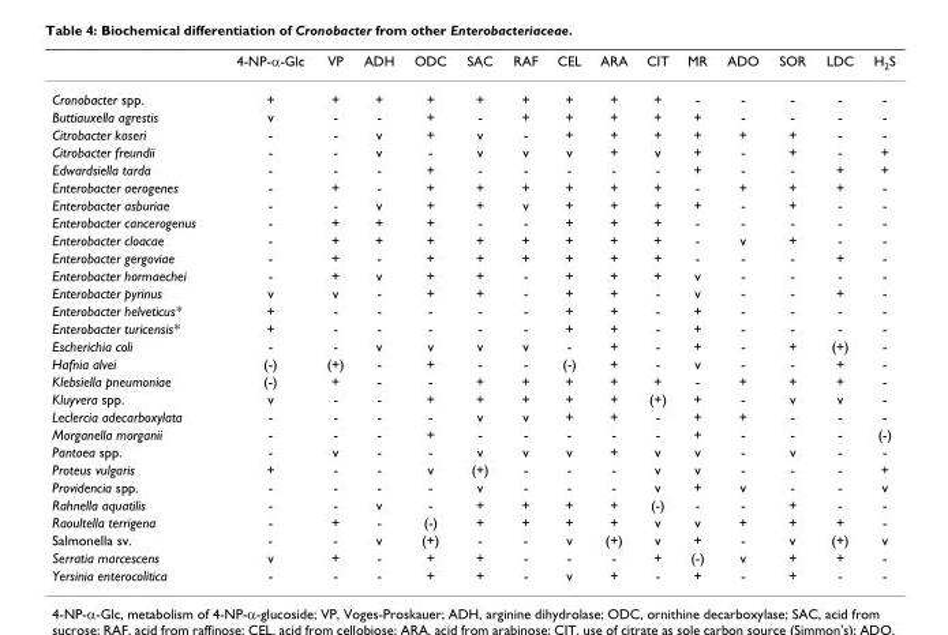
<table><thead><tr><td></td><td>4-NP-α-Glc</td><td>VP</td><td>ADH</td><td>ODC</td><td>SAC</td><td>RAF</td><td>CEL</td><td>ARA</td><td>CIT</td><td>MR</td><td>ADO</td><td>SOR</td><td>LDC</td><td>H<sub>2</sub>S</td></tr></thead><tbody><tr><td>Cronobacter spp.</td><td>+</td><td>+</td><td>+</td><td>+</td><td>+</td><td>+</td><td>+</td><td>+</td><td>+</td><td>-</td><td>-</td><td>-</td><td>-</td><td>-</td></tr><tr><td>Buttiauxella agrestis</td><td>v</td><td>-</td><td>-</td><td>+</td><td>-</td><td>+</td><td>+</td><td>+</td><td>+</td><td>+</td><td>-</td><td>-</td><td>-</td><td>-</td></tr><tr><td>Citrobacter koseri</td><td>-</td><td>-</td><td>v</td><td>+</td><td>v</td><td>-</td><td>+</td><td>+</td><td>+</td><td>+</td><td>+</td><td>+</td><td>-</td><td>-</td></tr><tr><td>Citrobacter freundii</td><td>-</td><td>-</td><td>v</td><td>-</td><td>v</td><td>v</td><td>v</td><td>+</td><td>v</td><td>+</td><td>-</td><td>+</td><td>-</td><td>+</td></tr><tr><td>Edwardsiella tarda</td><td>-</td><td>-</td><td>-</td><td>+</td><td>-</td><td>-</td><td>-</td><td>-</td><td>-</td><td>+</td><td>-</td><td>-</td><td>+</td><td>+</td></tr><tr><td>Enterobacter aerogenes</td><td>-</td><td>+</td><td>-</td><td>+</td><td>+</td><td>+</td><td>+</td><td>+</td><td>+</td><td>-</td><td>+</td><td>+</td><td>+</td><td>-</td></tr><tr><td>Enterobacter asburiae</td><td>-</td><td>-</td><td>v</td><td>+</td><td>+</td><td>v</td><td>+</td><td>+</td><td>+</td><td>+</td><td>-</td><td>+</td><td>-</td><td>-</td></tr><tr><td>Enterobacter cancerogenus</td><td>-</td><td>+</td><td>+</td><td>+</td><td>-</td><td>-</td><td>+</td><td>+</td><td>+</td><td>-</td><td>-</td><td>-</td><td>-</td><td>-</td></tr><tr><td>Enterobacter cloacae</td><td>-</td><td>+</td><td>+</td><td>+</td><td>+</td><td>+</td><td>+</td><td>+</td><td>+</td><td>-</td><td>v</td><td>+</td><td>-</td><td>-</td></tr><tr><td>Enterobacter gergoviae</td><td>-</td><td>+</td><td>-</td><td>+</td><td>+</td><td>+</td><td>+</td><td>+</td><td>+</td><td>-</td><td>-</td><td>-</td><td>+</td><td>-</td></tr><tr><td>Enterobacter hormaechei</td><td>-</td><td>+</td><td>v</td><td>+</td><td>+</td><td>-</td><td>+</td><td>+</td><td>+</td><td>v</td><td>-</td><td>-</td><td>-</td><td>-</td></tr><tr><td>Enterobacter pyrinus</td><td>v</td><td>v</td><td>-</td><td>+</td><td>+</td><td>-</td><td>+</td><td>+</td><td>-</td><td>v</td><td>-</td><td>-</td><td>+</td><td>-</td></tr><tr><td>Enterobacter helveticus*</td><td>+</td><td>-</td><td>-</td><td>-</td><td>-</td><td>-</td><td>+</td><td>+</td><td>-</td><td>+</td><td>-</td><td>-</td><td>-</td><td>-</td></tr><tr><td>Enterobacter turicensis*</td><td>+</td><td>-</td><td>-</td><td>-</td><td>-</td><td>-</td><td>+</td><td>+</td><td>-</td><td>+</td><td>-</td><td>-</td><td>-</td><td>-</td></tr><tr><td>Escherichia coli</td><td>-</td><td>-</td><td>v</td><td>v</td><td>v</td><td>v</td><td>-</td><td>+</td><td>-</td><td>+</td><td>-</td><td>+</td><td>(+)</td><td>-</td></tr><tr><td>Hafnia alvei</td><td>(-)</td><td>(+)</td><td>-</td><td>+</td><td>-</td><td>-</td><td>(-)</td><td>+</td><td>-</td><td>v</td><td>-</td><td>-</td><td>+</td><td>-</td></tr><tr><td>Klebsiella pneumoniae</td><td>(-)</td><td>+</td><td>-</td><td>-</td><td>+</td><td>+</td><td>+</td><td>+</td><td>+</td><td>-</td><td>+</td><td>+</td><td>+</td><td>-</td></tr><tr><td>Kluyvera spp.</td><td>v</td><td>-</td><td>-</td><td>+</td><td>+</td><td>+</td><td>+</td><td>+</td><td>(+)</td><td>+</td><td>-</td><td>v</td><td>v</td><td>-</td></tr><tr><td>Leclercia adecarboxylata</td><td>-</td><td>-</td><td>-</td><td>-</td><td>v</td><td>v</td><td>+</td><td>+</td><td>-</td><td>+</td><td>+</td><td>-</td><td>-</td><td>-</td></tr><tr><td>Morganella morganii</td><td>-</td><td>-</td><td>-</td><td>+</td><td>-</td><td>-</td><td>-</td><td>-</td><td>-</td><td>+</td><td>-</td><td>-</td><td>-</td><td>(-)</td></tr><tr><td>Pantoea spp.</td><td>-</td><td>v</td><td>-</td><td>-</td><td>v</td><td>v</td><td>v</td><td>+</td><td>v</td><td>v</td><td>-</td><td>v</td><td>-</td><td>-</td></tr><tr><td>Proteus vulgaris</td><td>+</td><td>-</td><td>-</td><td>v</td><td>(+)</td><td>-</td><td>-</td><td>-</td><td>v</td><td>v</td><td>-</td><td>-</td><td>-</td><td>+</td></tr><tr><td>Providencia spp.</td><td>-</td><td>-</td><td>-</td><td>-</td><td>v</td><td>-</td><td>-</td><td>-</td><td>v</td><td>+</td><td>v</td><td>-</td><td>-</td><td>v</td></tr><tr><td>Rahnella aquatilis</td><td>-</td><td>-</td><td>v</td><td>-</td><td>+</td><td>+</td><td>+</td><td>+</td><td>(-)</td><td>-</td><td>-</td><td>+</td><td>-</td><td>-</td></tr><tr><td>Raoultella terrigena</td><td>-</td><td>+</td><td>-</td><td>(-)</td><td>+</td><td>+</td><td>+</td><td>+</td><td>v</td><td>v</td><td>+</td><td>+</td><td>+</td><td>-</td></tr><tr><td>Salmonella sv.</td><td>-</td><td>-</td><td>v</td><td>(+)</td><td>-</td><td>-</td><td>v</td><td>(+)</td><td>v</td><td>+</td><td>-</td><td>v</td><td>(+)</td><td>v</td></tr><tr><td>Serratia marcescens</td><td>v</td><td>+</td><td>-</td><td>+</td><td>+</td><td>-</td><td>-</td><td>-</td><td>+</td><td>(-)</td><td>v</td><td>+</td><td>+</td><td>-</td></tr><tr><td>Yersinia enterocolitica</td><td>-</td><td>-</td><td>-</td><td>+</td><td>+</td><td>-</td><td>v</td><td>+</td><td>-</td><td>+</td><td>-</td><td>+</td><td>-</td><td>-</td></tr></tbody></table>